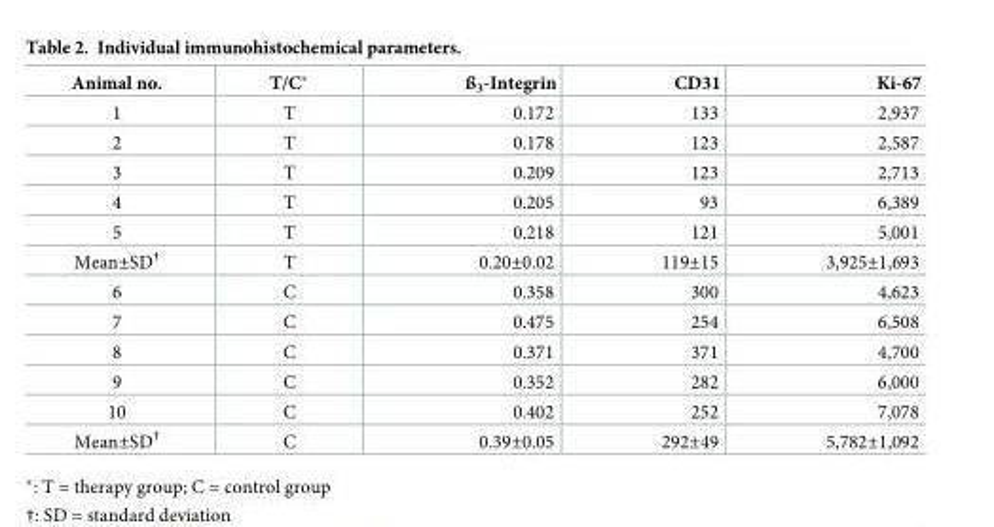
<table><thead><tr><td>Animal no.</td><td>T/C*</td><td>ß<sub>3</sub>-Integrin</td><td>CD31</td><td>Ki-67</td></tr></thead><tbody><tr><td>1</td><td>T</td><td>0.172</td><td>133</td><td>2,937</td></tr><tr><td>2</td><td>T</td><td>0.178</td><td>123</td><td>2,587</td></tr><tr><td>3</td><td>T</td><td>0.209</td><td>123</td><td>2,713</td></tr><tr><td>4</td><td>T</td><td>0.205</td><td>93</td><td>6,389</td></tr><tr><td>5</td><td>T</td><td>0.218</td><td>121</td><td>5,001</td></tr><tr><td>Mean±SD<sup>†</sup></td><td>T</td><td>0.20±0.02</td><td>119±15</td><td>3,925±1,693</td></tr><tr><td>6</td><td>C</td><td>0.358</td><td>300</td><td>4,623</td></tr><tr><td>7</td><td>C</td><td>0.475</td><td>254</td><td>6,508</td></tr><tr><td>8</td><td>C</td><td>0.371</td><td>371</td><td>4,700</td></tr><tr><td>9</td><td>C</td><td>0.352</td><td>282</td><td>6,000</td></tr><tr><td>10</td><td>C</td><td>0.402</td><td>252</td><td>7,078</td></tr><tr><td>Mean±SD<sup>†</sup></td><td>C</td><td>0.39±0.05</td><td>292±49</td><td>5,782±1,092</td></tr></tbody></table>